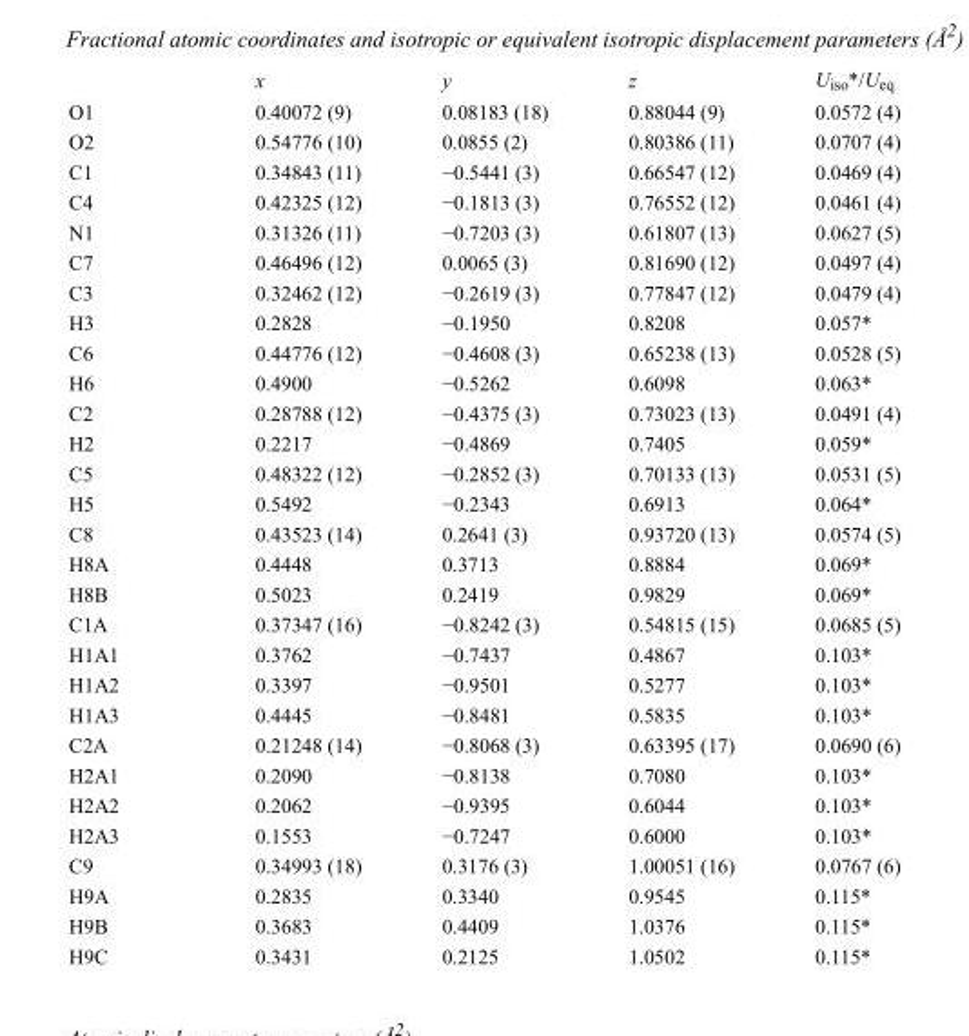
<table><thead><tr><td></td><td>x</td><td>y</td><td>z</td><td>U<sub>iso</sub>*/U<sub>eq</sub></td></tr></thead><tbody><tr><td>O1</td><td>0.40072 (9)</td><td>0.08183 (18)</td><td>0.88044 (9)</td><td>0.0572 (4)</td></tr><tr><td>O2</td><td>0.54776 (10)</td><td>0.0855 (2)</td><td>0.80386 (11)</td><td>0.0707 (4)</td></tr><tr><td>C1</td><td>0.34843 (11)</td><td>−0.5441 (3)</td><td>0.66547 (12)</td><td>0.0469 (4)</td></tr><tr><td>C4</td><td>0.42325 (12)</td><td>−0.1813 (3)</td><td>0.76552 (12)</td><td>0.0461 (4)</td></tr><tr><td>N1</td><td>0.31326 (11)</td><td>−0.7203 (3)</td><td>0.61807 (13)</td><td>0.0627 (5)</td></tr><tr><td>C7</td><td>0.46496 (12)</td><td>0.0065 (3)</td><td>0.81690 (12)</td><td>0.0497 (4)</td></tr><tr><td>C3</td><td>0.32462 (12)</td><td>−0.2619 (3)</td><td>0.77847 (12)</td><td>0.0479 (4)</td></tr><tr><td>H3</td><td>0.2828</td><td>−0.1950</td><td>0.8208</td><td>0.057*</td></tr><tr><td>C6</td><td>0.44776 (12)</td><td>−0.4608 (3)</td><td>0.65238 (13)</td><td>0.0528 (5)</td></tr><tr><td>H6</td><td>0.4900</td><td>−0.5262</td><td>0.6098</td><td>0.063*</td></tr><tr><td>C2</td><td>0.28788 (12)</td><td>−0.4375 (3)</td><td>0.73023 (13)</td><td>0.0491 (4)</td></tr><tr><td>H2</td><td>0.2217</td><td>−0.4869</td><td>0.7405</td><td>0.059*</td></tr><tr><td>C5</td><td>0.48322 (12)</td><td>−0.2852 (3)</td><td>0.70133 (13)</td><td>0.0531 (5)</td></tr><tr><td>H5</td><td>0.5492</td><td>−0.2343</td><td>0.6913</td><td>0.064*</td></tr><tr><td>C8</td><td>0.43523 (14)</td><td>0.2641 (3)</td><td>0.93720 (13)</td><td>0.0574 (5)</td></tr><tr><td>H8A</td><td>0.4448</td><td>0.3713</td><td>0.8884</td><td>0.069*</td></tr><tr><td>H8B</td><td>0.5023</td><td>0.2419</td><td>0.9829</td><td>0.069*</td></tr><tr><td>C1A</td><td>0.37347 (16)</td><td>−0.8242 (3)</td><td>0.54815 (15)</td><td>0.0685 (5)</td></tr><tr><td>H1A1</td><td>0.3762</td><td>−0.7437</td><td>0.4867</td><td>0.103*</td></tr><tr><td>H1A2</td><td>0.3397</td><td>−0.9501</td><td>0.5277</td><td>0.103*</td></tr><tr><td>H1A3</td><td>0.4445</td><td>−0.8481</td><td>0.5835</td><td>0.103*</td></tr><tr><td>C2A</td><td>0.21248 (14)</td><td>−0.8068 (3)</td><td>0.63395 (17)</td><td>0.0690 (6)</td></tr><tr><td>H2A1</td><td>0.2090</td><td>−0.8138</td><td>0.7080</td><td>0.103*</td></tr><tr><td>H2A2</td><td>0.2062</td><td>−0.9395</td><td>0.6044</td><td>0.103*</td></tr><tr><td>H2A3</td><td>0.1553</td><td>−0.7247</td><td>0.6000</td><td>0.103*</td></tr><tr><td>C9</td><td>0.34993 (18)</td><td>0.3176 (3)</td><td>1.00051 (16)</td><td>0.0767 (6)</td></tr><tr><td>H9A</td><td>0.2835</td><td>0.3340</td><td>0.9545</td><td>0.115*</td></tr><tr><td>H9B</td><td>0.3683</td><td>0.4409</td><td>1.0376</td><td>0.115*</td></tr><tr><td>H9C</td><td>0.3431</td><td>0.2125</td><td>1.0502</td><td>0.115*</td></tr></tbody></table>